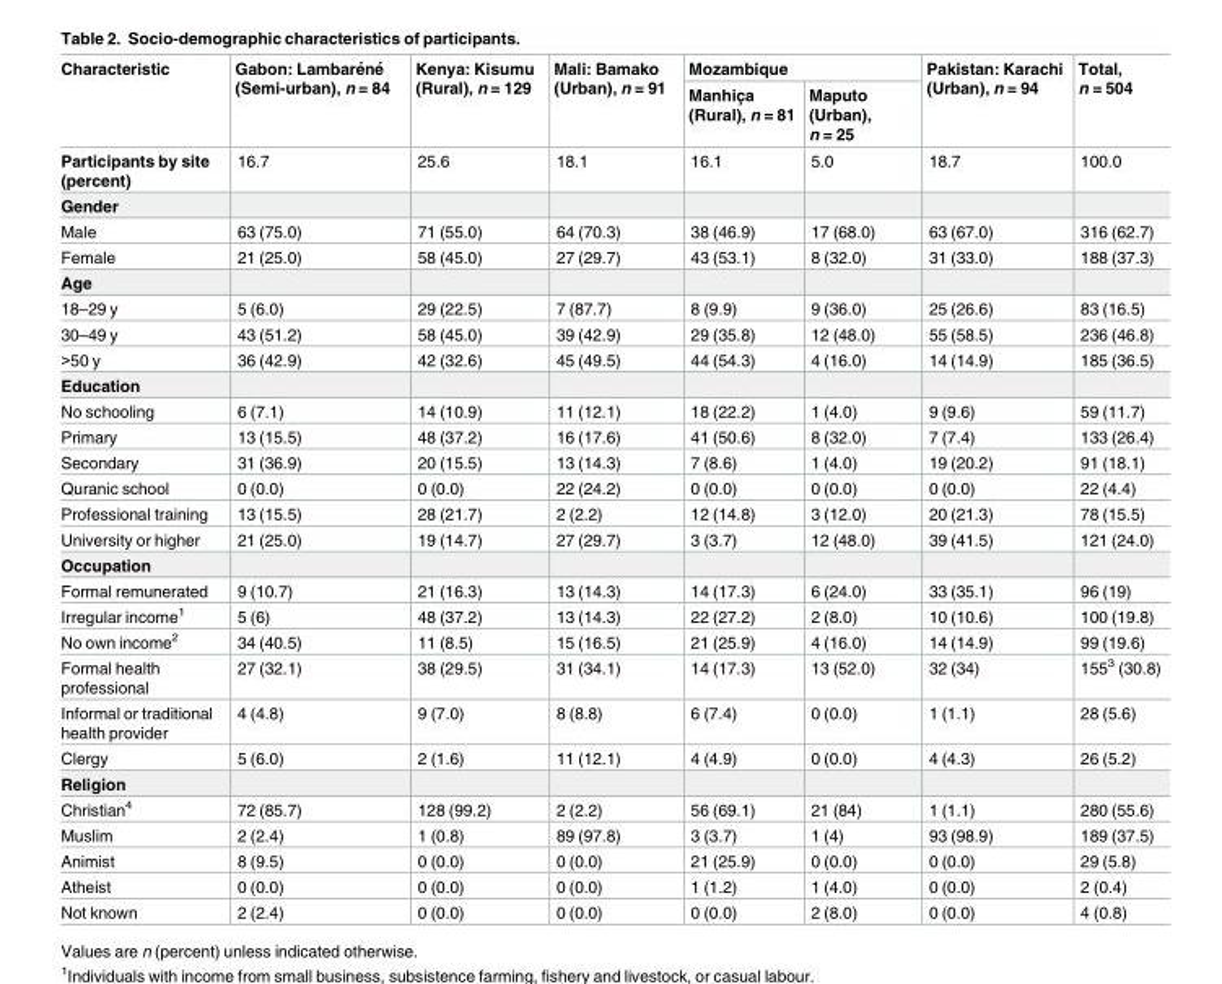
<table><thead><tr><td rowspan="2">Characteristic</td><td rowspan="2">Gabon: Lambare´ne´ (Semi-urban), n = 84</td><td rowspan="2">Kenya: Kisumu (Rural), n = 129</td><td rowspan="2">Mali: Bamako (Urban), n = 91</td><td colspan="2">Mozambique</td><td rowspan="2">Pakistan: Karachi (Urban), n = 94</td><td rowspan="2">Total, n = 504</td></tr><tr><td>Manhic¸a (Rural), n = 81</td><td>Maputo (Urban), n = 25</td></tr></thead><tbody><tr><td>Participants by site (percent)</td><td>16.7</td><td>25.6</td><td>18.1</td><td>16.1</td><td>5.0</td><td>18.7</td><td>100.0</td></tr><tr><td colspan="8">Gender</td></tr><tr><td>Male</td><td>63 (75.0)</td><td>71 (55.0)</td><td>64 (70.3)</td><td>38 (46.9)</td><td>17 (68.0)</td><td>63 (67.0)</td><td>316 (62.7)</td></tr><tr><td>Female</td><td>21 (25.0)</td><td>58 (45.0)</td><td>27 (29.7)</td><td>43 (53.1)</td><td>8 (32.0)</td><td>31 (33.0)</td><td>188 (37.3)</td></tr><tr><td colspan="8">Age</td></tr><tr><td>18–29 y</td><td>5 (6.0)</td><td>29 (22.5)</td><td>7 (87.7)</td><td>8 (9.9)</td><td>9 (36.0)</td><td>25 (26.6)</td><td>83 (16.5)</td></tr><tr><td>30–49 y</td><td>43 (51.2)</td><td>58 (45.0)</td><td>39 (42.9)</td><td>29 (35.8)</td><td>12 (48.0)</td><td>55 (58.5)</td><td>236 (46.8)</td></tr><tr><td>&gt;50 y</td><td>36 (42.9)</td><td>42 (32.6)</td><td>45 (49.5)</td><td>44 (54.3)</td><td>4 (16.0)</td><td>14 (14.9)</td><td>185 (36.5)</td></tr><tr><td colspan="8">Education</td></tr><tr><td>No schooling</td><td>6 (7.1)</td><td>14 (10.9)</td><td>11 (12.1)</td><td>18 (22.2)</td><td>1 (4.0)</td><td>9 (9.6)</td><td>59 (11.7)</td></tr><tr><td>Primary</td><td>13 (15.5)</td><td>48 (37.2)</td><td>16 (17.6)</td><td>41 (50.6)</td><td>8 (32.0)</td><td>7 (7.4)</td><td>133 (26.4)</td></tr><tr><td>Secondary</td><td>31 (36.9)</td><td>20 (15.5)</td><td>13 (14.3)</td><td>7 (8.6)</td><td>1 (4.0)</td><td>19 (20.2)</td><td>91 (18.1)</td></tr><tr><td>Quranic school</td><td>0 (0.0)</td><td>0 (0.0)</td><td>22 (24.2)</td><td>0 (0.0)</td><td>0 (0.0)</td><td>0 (0.0)</td><td>22 (4.4)</td></tr><tr><td>Professional training</td><td>13 (15.5)</td><td>28 (21.7)</td><td>2 (2.2)</td><td>12 (14.8)</td><td>3 (12.0)</td><td>20 (21.3)</td><td>78 (15.5)</td></tr><tr><td>University or higher</td><td>21 (25.0)</td><td>19 (14.7)</td><td>27 (29.7)</td><td>3 (3.7)</td><td>12 (48.0)</td><td>39 (41.5)</td><td>121 (24.0)</td></tr><tr><td colspan="8">Occupation</td></tr><tr><td>Formal remunerated</td><td>9 (10.7)</td><td>21 (16.3)</td><td>13 (14.3)</td><td>14 (17.3)</td><td>6 (24.0)</td><td>33 (35.1)</td><td>96 (19)</td></tr><tr><td>Irregular income<sup>1</sup></td><td>5 (6)</td><td>48 (37.2)</td><td>13 (14.3)</td><td>22 (27.2)</td><td>2 (8.0)</td><td>10 (10.6)</td><td>100 (19.8)</td></tr><tr><td>No own income<sup>2</sup></td><td>34 (40.5)</td><td>11 (8.5)</td><td>15 (16.5)</td><td>21 (25.9)</td><td>4 (16.0)</td><td>14 (14.9)</td><td>99 (19.6)</td></tr><tr><td>Formal health professional</td><td>27 (32.1)</td><td>38 (29.5)</td><td>31 (34.1)</td><td>14 (17.3)</td><td>13 (52.0)</td><td>32 (34)</td><td>155<sup>3</sup> (30.8)</td></tr><tr><td>Informal or traditional health provider</td><td>4 (4.8)</td><td>9 (7.0)</td><td>8 (8.8)</td><td>6 (7.4)</td><td>0 (0.0)</td><td>1 (1.1)</td><td>28 (5.6)</td></tr><tr><td>Clergy</td><td>5 (6.0)</td><td>2 (1.6)</td><td>11 (12.1)</td><td>4 (4.9)</td><td>0 (0.0)</td><td>4 (4.3)</td><td>26 (5.2)</td></tr><tr><td colspan="8">Religion</td></tr><tr><td>Christian<sup>4</sup></td><td>72 (85.7)</td><td>128 (99.2)</td><td>2 (2.2)</td><td>56 (69.1)</td><td>21 (84)</td><td>1 (1.1)</td><td>280 (55.6)</td></tr><tr><td>Muslim</td><td>2 (2.4)</td><td>1 (0.8)</td><td>89 (97.8)</td><td>3 (3.7)</td><td>1 (4)</td><td>93 (98.9)</td><td>189 (37.5)</td></tr><tr><td>Animist</td><td>8 (9.5)</td><td>0 (0.0)</td><td>0 (0.0)</td><td>21 (25.9)</td><td>0 (0.0)</td><td>0 (0.0)</td><td>29 (5.8)</td></tr><tr><td>Atheist</td><td>0 (0.0)</td><td>0 (0.0)</td><td>0 (0.0)</td><td>1 (1.2)</td><td>1 (4.0)</td><td>0 (0.0)</td><td>2 (0.4)</td></tr><tr><td>Not known</td><td>2 (2.4)</td><td>0 (0.0)</td><td>0 (0.0)</td><td>0 (0.0)</td><td>2 (8.0)</td><td>0 (0.0)</td><td>4 (0.8)</td></tr></tbody></table>